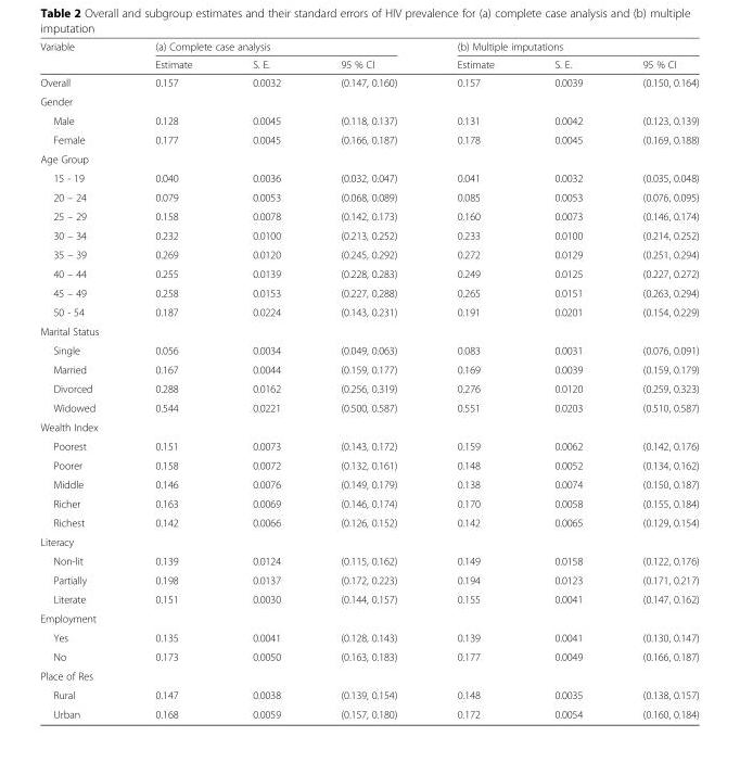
<table><thead><tr><td rowspan="2">Variable</td><td colspan="3">(a) Complete case analysis</td><td colspan="3">(b) Multiple imputations</td></tr><tr><td>Estimate</td><td>S. E.</td><td>95 % CI</td><td>Estimate</td><td>S. E.</td><td>95 % CI</td></tr></thead><tbody><tr><td>Overall</td><td>0.157</td><td>0.0032</td><td>(0.147, 0.160)</td><td>0.157</td><td>0.0039</td><td>(0.150, 0.164)</td></tr><tr><td colspan="7">Gender</td></tr><tr><td>Male</td><td>0.128</td><td>0.0045</td><td>(0.118, 0.137)</td><td>0.131</td><td>0.0042</td><td>(0.123, 0.139)</td></tr><tr><td>Female</td><td>0.177</td><td>0.0045</td><td>(0.166, 0.187)</td><td>0.178</td><td>0.0045</td><td>(0.169, 0.188)</td></tr><tr><td colspan="7">Age Group</td></tr><tr><td>15 - 19</td><td>0.040</td><td>0.0036</td><td>(0.032, 0.047)</td><td>0.041</td><td>0.0032</td><td>(0.035, 0.048)</td></tr><tr><td>20 – 24</td><td>0.079</td><td>0.0053</td><td>(0.068, 0.089)</td><td>0.085</td><td>0.0053</td><td>(0.076, 0.095)</td></tr><tr><td>25 – 29</td><td>0.158</td><td>0.0078</td><td>(0.142, 0.173)</td><td>0.160</td><td>0.0073</td><td>(0.146, 0.174)</td></tr><tr><td>30 – 34</td><td>0.232</td><td>0.0100</td><td>(0.213, 0.252)</td><td>0.233</td><td>0.0100</td><td>(0.214, 0.252)</td></tr><tr><td>35 – 39</td><td>0.269</td><td>0.0120</td><td>(0.245, 0.292)</td><td>0.272</td><td>0.0129</td><td>(0.251, 0.294)</td></tr><tr><td>40 – 44</td><td>0.255</td><td>0.0139</td><td>(0.228, 0.283)</td><td>0.249</td><td>0.0125</td><td>(0.227, 0.272)</td></tr><tr><td>45 – 49</td><td>0.258</td><td>0.0153</td><td>(0.227, 0.288)</td><td>0.265</td><td>0.0151</td><td>(0.263, 0.294)</td></tr><tr><td>50 - 54</td><td>0.187</td><td>0.0224</td><td>(0.143, 0.231)</td><td>0.191</td><td>0.0201</td><td>(0.154, 0.229)</td></tr><tr><td colspan="7">Marital Status</td></tr><tr><td>Single</td><td>0.056</td><td>0.0034</td><td>(0.049, 0.063)</td><td>0.083</td><td>0.0031</td><td>(0.076, 0.091)</td></tr><tr><td>Married</td><td>0.167</td><td>0.0044</td><td>(0.159, 0.177)</td><td>0.169</td><td>0.0039</td><td>(0.159, 0.179)</td></tr><tr><td>Divorced</td><td>0.288</td><td>0.0162</td><td>(0.256, 0.319)</td><td>0.276</td><td>0.0120</td><td>(0.259, 0.323)</td></tr><tr><td>Widowed</td><td>0.544</td><td>0.0221</td><td>(0.500, 0.587)</td><td>0.551</td><td>0.0203</td><td>(0.510, 0.587)</td></tr><tr><td colspan="7">Wealth Index</td></tr><tr><td>Poorest</td><td>0.151</td><td>0.0073</td><td>(0.143, 0.172)</td><td>0.159</td><td>0.0062</td><td>(0.142, 0.176)</td></tr><tr><td>Poorer</td><td>0.158</td><td>0.0072</td><td>(0.132, 0.161)</td><td>0.148</td><td>0.0052</td><td>(0.134, 0.162)</td></tr><tr><td>Middle</td><td>0.146</td><td>0.0076</td><td>(0.149, 0.179)</td><td>0.138</td><td>0.0074</td><td>(0.150, 0.187)</td></tr><tr><td>Richer</td><td>0.163</td><td>0.0069</td><td>(0.146, 0.174)</td><td>0.170</td><td>0.0058</td><td>(0.155, 0.184)</td></tr><tr><td>Richest</td><td>0.142</td><td>0.0066</td><td>(0.126, 0.152)</td><td>0.142</td><td>0.0065</td><td>(0.129, 0.154)</td></tr><tr><td colspan="7">Literacy</td></tr><tr><td>Non-lit</td><td>0.139</td><td>0.0124</td><td>(0.115, 0.162)</td><td>0.149</td><td>0.0158</td><td>(0.122, 0.176)</td></tr><tr><td>Partially</td><td>0.198</td><td>0.0137</td><td>(0.172, 0.223)</td><td>0.194</td><td>0.0123</td><td>(0.171, 0.217)</td></tr><tr><td>Literate</td><td>0.151</td><td>0.0030</td><td>(0.144, 0.157)</td><td>0.155</td><td>0.0041</td><td>(0.147, 0.162)</td></tr><tr><td colspan="7">Employment</td></tr><tr><td>Yes</td><td>0.135</td><td>0.0041</td><td>(0.128, 0.143)</td><td>0.139</td><td>0.0041</td><td>(0.130, 0.147)</td></tr><tr><td>No</td><td>0.173</td><td>0.0050</td><td>(0.163, 0.183)</td><td>0.177</td><td>0.0049</td><td>(0.166, 0.187)</td></tr><tr><td colspan="7">Place of Res</td></tr><tr><td>Rural</td><td>0.147</td><td>0.0038</td><td>(0.139, 0.154)</td><td>0.148</td><td>0.0035</td><td>(0.138, 0.157)</td></tr><tr><td>Urban</td><td>0.168</td><td>0.0059</td><td>(0.157, 0.180)</td><td>0.172</td><td>0.0054</td><td>(0.160, 0.184)</td></tr></tbody></table>